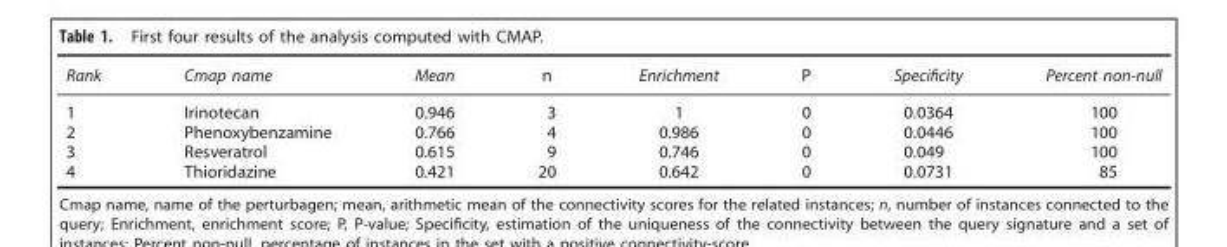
<table><thead><tr><td>Rank</td><td>Cmap name</td><td>Mean</td><td>n</td><td>Enrichment</td><td>P</td><td>Specificity</td><td>Percent non-null</td></tr></thead><tbody><tr><td>1</td><td>Irinotecan</td><td>0.946</td><td>3</td><td>1</td><td>0</td><td>0.0364</td><td>100</td></tr><tr><td>2</td><td>Phenoxybenzamine</td><td>0.766</td><td>4</td><td>0.986</td><td>0</td><td>0.0446</td><td>100</td></tr><tr><td>3</td><td>Resveratrol</td><td>0.615</td><td>9</td><td>0.746</td><td>0</td><td>0.049</td><td>100</td></tr><tr><td>4</td><td>Thioridazine</td><td>0.421</td><td>20</td><td>0.642</td><td>0</td><td>0.0731</td><td>85</td></tr></tbody></table>